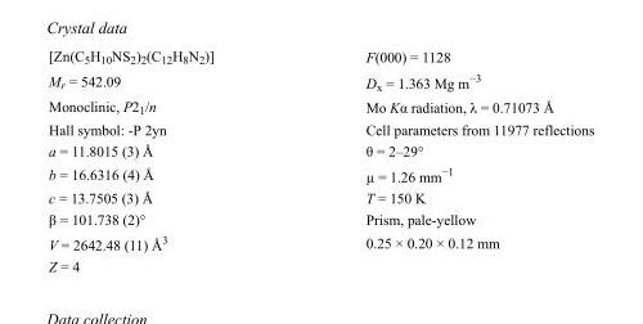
<table><tbody><tr><td>[Zn(C<sub>5</sub>H<sub>10</sub>NS<sub>2</sub>)<sub>2</sub>(C<sub>12</sub>H<sub>8</sub>N<sub>2</sub>)]</td><td>F(000) = 1128</td></tr><tr><td>M<sub>r</sub> = 542.09</td><td>D<sub>x</sub> = 1.363 Mg m<sup>−3</sup></td></tr><tr><td>Monoclinic, P2<sub>1</sub>/n</td><td>Mo Kα radiation, λ = 0.71073 Å</td></tr><tr><td>Hall symbol: -P 2yn</td><td>Cell parameters from 11977 reflections</td></tr><tr><td>a = 11.8015 (3) Å</td><td>θ = 2–29°</td></tr><tr><td>b = 16.6316 (4) Å</td><td>µ = 1.26 mm<sup>−1</sup></td></tr><tr><td>c = 13.7505 (3) Å</td><td>T = 150 K</td></tr><tr><td>β = 101.738 (2)°</td><td>Prism, pale-yellow</td></tr><tr><td>V = 2642.48 (11) Å<sup>3</sup></td><td>0.25 × 0.20 × 0.12 mm</td></tr><tr><td>Z = 4</td><td></td></tr></tbody></table>